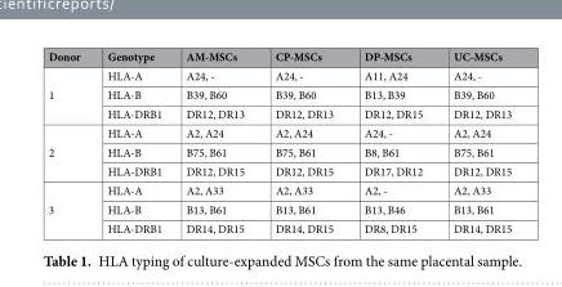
<table><thead><tr><td>Donor</td><td>Genotype</td><td>AM-MSCs</td><td>CP-MSCs</td><td>DP-MSCs</td><td>UC-MSCs</td></tr></thead><tbody><tr><td rowspan="3">1</td><td>HLA-A</td><td>A24, -</td><td>A24, -</td><td>A11, A24</td><td>A24, -</td></tr><tr><td>HLA-B</td><td>B39, B60</td><td>B39, B60</td><td>B13, B39</td><td>B39, B60</td></tr><tr><td>HLA-DRB1</td><td>DR12, DR13</td><td>DR12, DR13</td><td>DR12, DR15</td><td>DR12, DR13</td></tr><tr><td rowspan="3">2</td><td>HLA-A</td><td>A2, A24</td><td>A2, A24</td><td>A24, -</td><td>A2, A24</td></tr><tr><td>HLA-B</td><td>B75, B61</td><td>B75, B61</td><td>B8, B61</td><td>B75, B61</td></tr><tr><td>HLA-DRB1</td><td>DR12, DR15</td><td>DR12, DR15</td><td>DR17, DR12</td><td>DR12, DR15</td></tr><tr><td rowspan="3">3</td><td>HLA-A</td><td>A2, A33</td><td>A2, A33</td><td>A2, -</td><td>A2, A33</td></tr><tr><td>HLA-B</td><td>B13, B61</td><td>B13, B61</td><td>B13, B46</td><td>B13, B61</td></tr><tr><td>HLA-DRB1</td><td>DR14, DR15</td><td>DR14, DR15</td><td>DR8, DR15</td><td>DR14, DR15</td></tr></tbody></table>